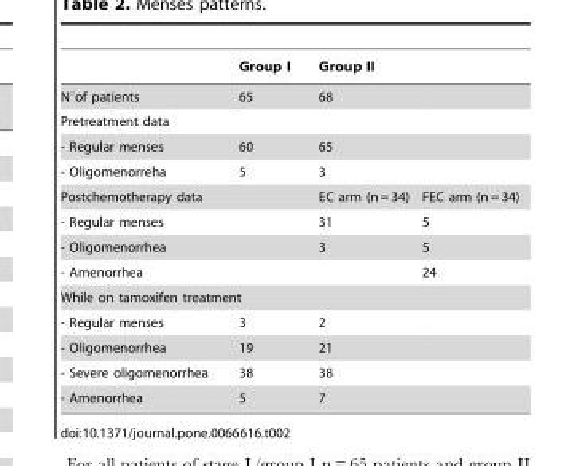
<table><thead><tr><td rowspan="2">N°of patients</td><td rowspan="2">Group I 65</td><td colspan="2">Group II</td></tr><tr><td>68</td><td></td></tr></thead><tbody><tr><td colspan="4">Pretreatment data</td></tr><tr><td>- Regular menses</td><td>60</td><td>65</td><td></td></tr><tr><td>- Oligomenorreha</td><td>5</td><td>3</td><td></td></tr><tr><td>Postchemotherapy data</td><td></td><td>EC arm (n = 34)</td><td>FEC arm (n = 34)</td></tr><tr><td>- Regular menses</td><td></td><td>31</td><td>5</td></tr><tr><td>- Oligomenorrhea</td><td></td><td>3</td><td>5</td></tr><tr><td>- Amenorrhea</td><td></td><td></td><td>24</td></tr><tr><td colspan="4">While on tamoxifen treatment</td></tr><tr><td>- Regular menses</td><td>3</td><td>2</td><td></td></tr><tr><td>- Oligomenorrhea</td><td>19</td><td>21</td><td></td></tr><tr><td>- Severe oligomenorrhea</td><td>38</td><td>38</td><td></td></tr><tr><td>- Amenorrhea</td><td>5</td><td>7</td><td></td></tr></tbody></table>